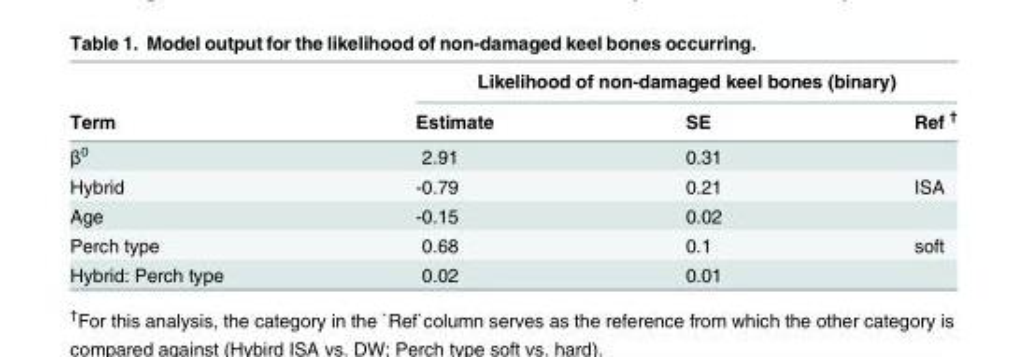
<table><thead><tr><td rowspan="2">Term</td><td colspan="3">Likelihood of non-damaged keel bones (binary)</td></tr><tr><td>Estimate</td><td>SE</td><td>Ref <sup>†</sup></td></tr></thead><tbody><tr><td>β<sup>0</sup></td><td>2.91</td><td>0.31</td><td></td></tr><tr><td>Hybrid</td><td>-0.79</td><td>0.21</td><td>ISA</td></tr><tr><td>Age</td><td>-0.15</td><td>0.02</td><td></td></tr><tr><td>Perch type</td><td>0.68</td><td>0.1</td><td>soft</td></tr><tr><td>Hybrid: Perch type</td><td>0.02</td><td>0.01</td><td></td></tr></tbody></table>